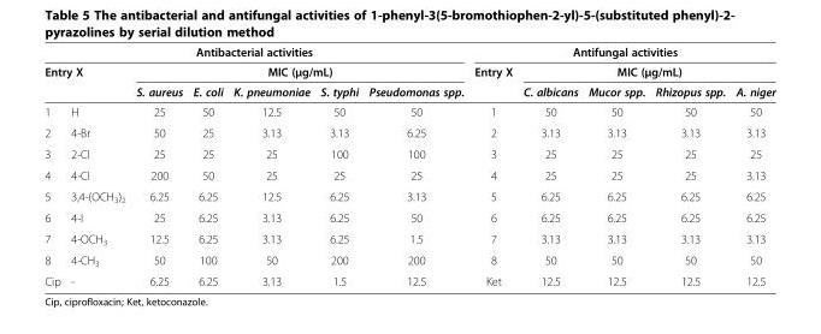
<table><thead><tr><td colspan="7">Antibacterial activities</td><td colspan="5">Antifungal activities</td></tr><tr><td colspan="2">Entry X</td><td colspan="5">MIC (μg/mL)</td><td rowspan="2">Entry X</td><td colspan="4">MIC (μg/mL)</td></tr><tr><td></td><td></td><td>S. aureus</td><td>E. coli</td><td>K. pneumoniae</td><td>S. typhi</td><td>Pseudomonas spp.</td><td>C. albicans</td><td>Mucor spp.</td><td>Rhizopus spp.</td><td>A. niger</td></tr></thead><tbody><tr><td>1</td><td>H</td><td>25</td><td>50</td><td>12.5</td><td>50</td><td>50</td><td>1</td><td>50</td><td>50</td><td>50</td><td>50</td></tr><tr><td>2</td><td>4-Br</td><td>50</td><td>25</td><td>3.13</td><td>3.13</td><td>6.25</td><td>2</td><td>3.13</td><td>3.13</td><td>3.13</td><td>3.13</td></tr><tr><td>3</td><td>2-Cl</td><td>25</td><td>25</td><td>25</td><td>100</td><td>100</td><td>3</td><td>25</td><td>25</td><td>25</td><td>25</td></tr><tr><td>4</td><td>4-Cl</td><td>200</td><td>50</td><td>25</td><td>25</td><td>25</td><td>4</td><td>25</td><td>25</td><td>25</td><td>3.13</td></tr><tr><td>5</td><td>3,4-(OCH<sub>3</sub>)<sub>2</sub></td><td>6.25</td><td>6.25</td><td>12.5</td><td>6.25</td><td>3.13</td><td>5</td><td>6.25</td><td>6.25</td><td>6.25</td><td>6.25</td></tr><tr><td>6</td><td>4-I</td><td>25</td><td>6.25</td><td>3.13</td><td>6.25</td><td>50</td><td>6</td><td>6.25</td><td>6.25</td><td>6.25</td><td>6.25</td></tr><tr><td>7</td><td>4-OCH<sub>3</sub></td><td>12.5</td><td>6.25</td><td>3.13</td><td>6.25</td><td>1.5</td><td>7</td><td>3.13</td><td>3.13</td><td>3.13</td><td>3.13</td></tr><tr><td>8</td><td>4-CH<sub>3</sub></td><td>50</td><td>100</td><td>50</td><td>200</td><td>200</td><td>8</td><td>50</td><td>50</td><td>50</td><td>50</td></tr><tr><td>Cip</td><td>-</td><td>6.25</td><td>6.25</td><td>3.13</td><td>1.5</td><td>12.5</td><td>Ket</td><td>12.5</td><td>12.5</td><td>12.5</td><td>12.5</td></tr></tbody></table>